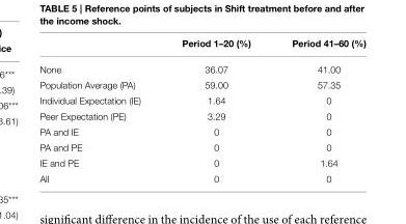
<table><thead><tr><td></td><td>Period 1–20 (%)</td><td>Period 41–60 (%)</td></tr></thead><tbody><tr><td>None</td><td>36.07</td><td>41.00</td></tr><tr><td>Population Average (PA)</td><td>59.00</td><td>57.35</td></tr><tr><td>Individual Expectation (IE)</td><td>1.64</td><td>0</td></tr><tr><td>Peer Expectation (PE)</td><td>3.29</td><td>0</td></tr><tr><td>PA and IE</td><td>0</td><td>0</td></tr><tr><td>PA and PE</td><td>0</td><td>0</td></tr><tr><td>IE and PE</td><td>0</td><td>1.64</td></tr><tr><td>All</td><td>0</td><td>0</td></tr></tbody></table>